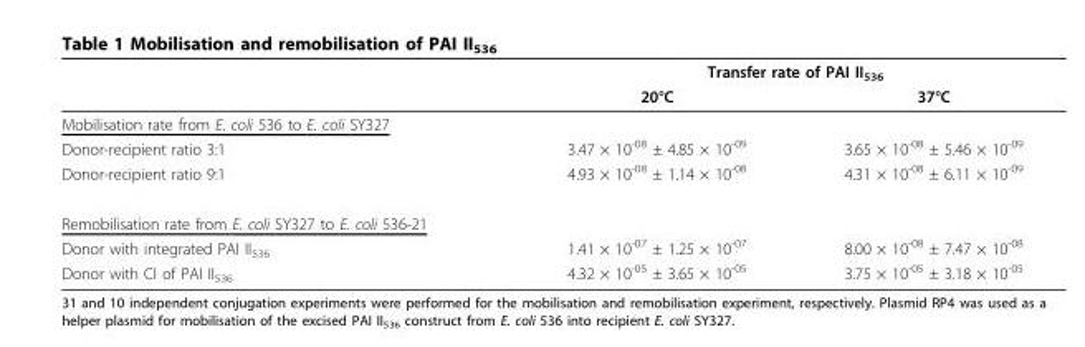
<table><thead><tr><td rowspan="2"></td><td colspan="2">Transfer rate of PAI II<sub>536</sub></td></tr><tr><td>20°C</td><td>37°C</td></tr></thead><tbody><tr><td colspan="3">Mobilisation rate from E. coli 536 to E. coli SY327</td></tr><tr><td>Donor-recipient ratio 3:1</td><td>3.47 × 10<sup>-08</sup> ± 4.85 × 10<sup>-09</sup></td><td>3.65 × 10<sup>-08</sup> ± 5.46 × 10<sup>-09</sup></td></tr><tr><td>Donor-recipient ratio 9:1</td><td>4.93 × 10<sup>-08</sup> ± 1.14 × 10<sup>-08</sup></td><td>4.31 × 10<sup>-08</sup> ± 6.11 × 10<sup>-09</sup></td></tr><tr><td colspan="3">Remobilisation rate from E. coli SY327 to E. coli 536-21</td></tr><tr><td>Donor with integrated PAI II<sub>536</sub></td><td>1.41 × 10<sup>-07</sup> ± 1.25 × 10<sup>-07</sup></td><td>8.00 × 10<sup>-08</sup> ± 7.47 × 10<sup>-08</sup></td></tr><tr><td>Donor with CI of PAI II<sub>536</sub></td><td>4.32 × 10<sup>-05</sup> ± 3.65 × 10<sup>-05</sup></td><td>3.75 × 10<sup>-05</sup> ± 3.18 × 10<sup>-05</sup></td></tr></tbody></table>